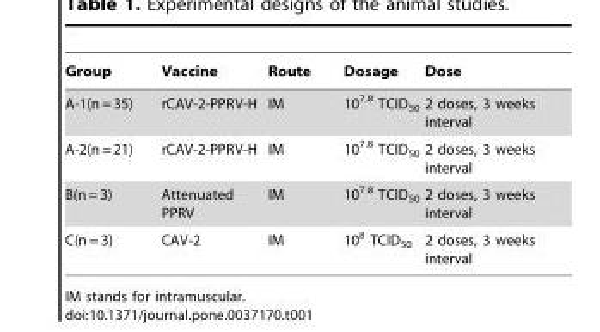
<table><thead><tr><td>Group</td><td>Vaccine</td><td>Route</td><td>Dosage</td><td>Dose</td></tr></thead><tbody><tr><td>A-1(n = 35)</td><td>rCAV-2-PPRV-H</td><td>IM</td><td>10<sup>7.8</sup> TCID<sub>50</sub></td><td>2 doses, 3 weeks interval</td></tr><tr><td>A-2(n = 21)</td><td>rCAV-2-PPRV-H</td><td>IM</td><td>10<sup>7.8</sup> TCID<sub>50</sub></td><td>2 doses, 3 weeks interval</td></tr><tr><td>B(n = 3)</td><td>Attenuated PPRV</td><td>IM</td><td>10<sup>7.8</sup> TCID<sub>50</sub></td><td>2 doses, 3 weeks interval</td></tr><tr><td>C(n = 3)</td><td>CAV-2</td><td>IM</td><td>10<sup>8</sup> TCID<sub>50</sub></td><td>2 doses, 3 weeks interval</td></tr></tbody></table>